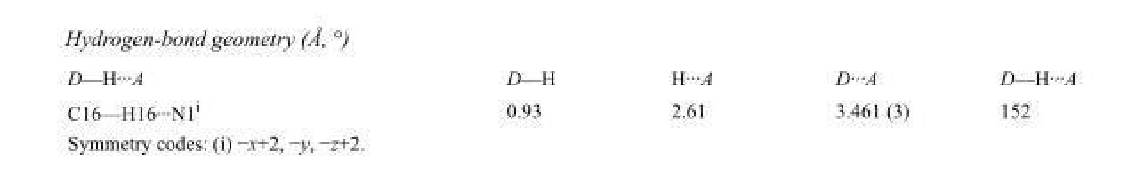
<table><tbody><tr><td>D—H···A</td><td>D—H</td><td>H···A</td><td>D···A</td><td>D—H···A</td></tr><tr><td>C16—H16···N1<sup>i</sup></td><td>0.93</td><td>2.61</td><td>3.461 (3)</td><td>152</td></tr></tbody></table>